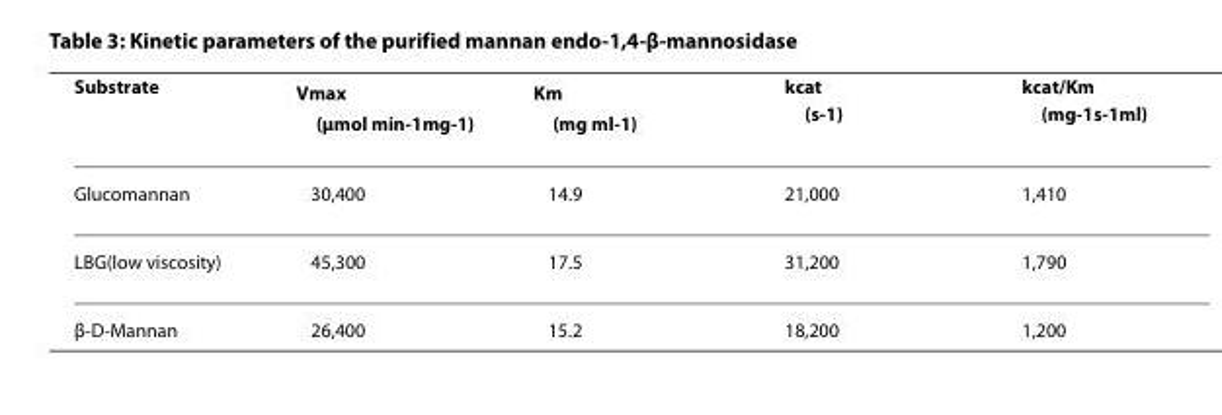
<table><thead><tr><td>Substrate</td><td>V<sub>max</sub> (μmol min<sup>-1</sup>mg<sup>-1</sup>)</td><td>K<sub>m</sub> (mg ml<sup>-1</sup>)</td><td>k<sub>cat</sub> (s<sup>-1</sup>)</td><td>k<sub>cat</sub>/K<sub>m</sub> (mg<sup>-1</sup>s<sup>-1</sup>ml)</td></tr></thead><tbody><tr><td>Glucomannan</td><td>30,400</td><td>14.9</td><td>21,000</td><td>1,410</td></tr><tr><td>LBG(low viscosity)</td><td>45,300</td><td>17.5</td><td>31,200</td><td>1,790</td></tr><tr><td>β-D-Mannan</td><td>26,400</td><td>15.2</td><td>18,200</td><td>1,200</td></tr></tbody></table>